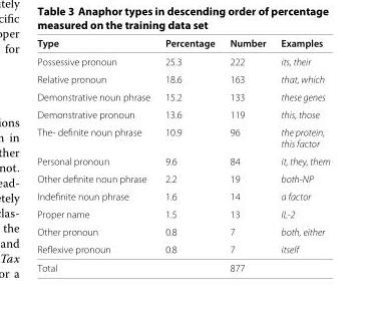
<table><thead><tr><td>Type</td><td>Percentage</td><td>Number</td><td>Examples</td></tr></thead><tbody><tr><td>Possessive pronoun</td><td>25.3</td><td>222</td><td>its, their</td></tr><tr><td>Relative pronoun</td><td>18.6</td><td>163</td><td>that, which</td></tr><tr><td>Demonstrative noun phrase</td><td>15.2</td><td>133</td><td>these genes</td></tr><tr><td>Demonstrative pronoun</td><td>13.6</td><td>119</td><td>this, those</td></tr><tr><td>The- definite noun phrase</td><td>10.9</td><td>96</td><td>the protein, this factor</td></tr><tr><td>Personal pronoun</td><td>9.6</td><td>84</td><td>it, they, them</td></tr><tr><td>Other definite noun phrase</td><td>2.2</td><td>19</td><td>both-NP</td></tr><tr><td>Indefinite noun phrase</td><td>1.6</td><td>14</td><td>a factor</td></tr><tr><td>Proper name</td><td>1.5</td><td>13</td><td>IL-2</td></tr><tr><td>Other pronoun</td><td>0.8</td><td>7</td><td>both, either</td></tr><tr><td>Reflexive pronoun</td><td>0.8</td><td>7</td><td>itself</td></tr><tr><td>Total</td><td></td><td>877</td><td></td></tr></tbody></table>